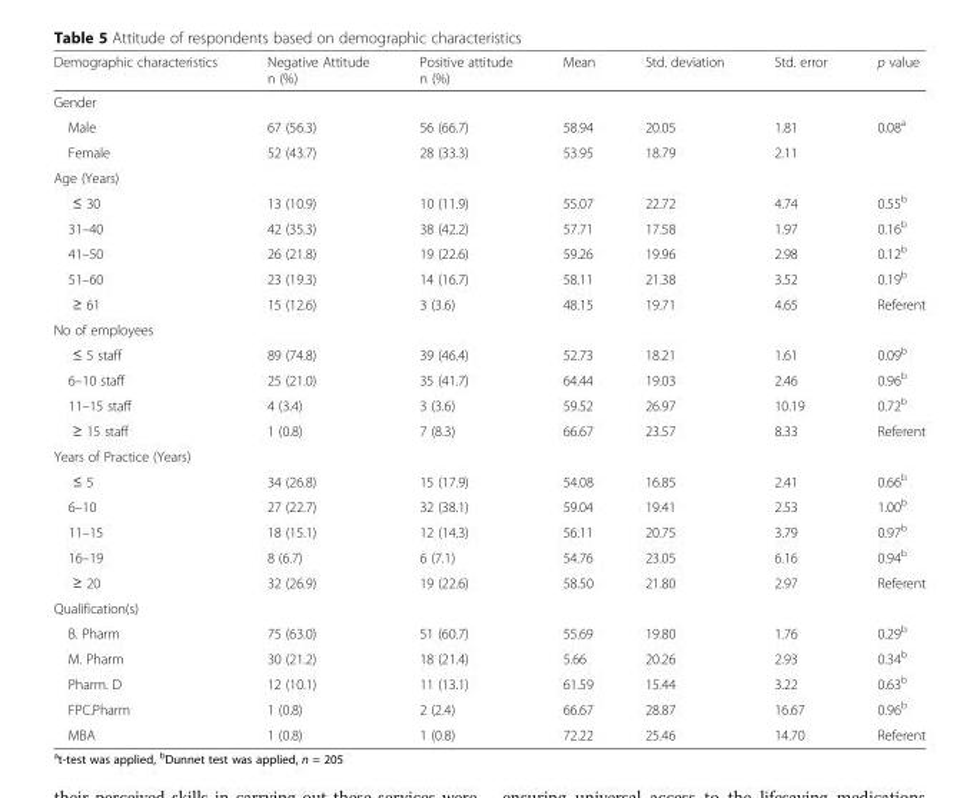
<table><thead><tr><td>Demographic characteristics</td><td>Negative Attitude n (%)</td><td>Positive attitude n (%)</td><td>Mean</td><td>Std. deviation</td><td>Std. error</td><td>p value</td></tr></thead><tbody><tr><td colspan="7">Gender</td></tr><tr><td>Male</td><td>67 (56.3)</td><td>56 (66.7)</td><td>58.94</td><td>20.05</td><td>1.81</td><td>0.08<sup>a</sup></td></tr><tr><td>Female</td><td>52 (43.7)</td><td>28 (33.3)</td><td>53.95</td><td>18.79</td><td>2.11</td><td></td></tr><tr><td colspan="7">Age (Years)</td></tr><tr><td>≤ 30</td><td>13 (10.9)</td><td>10 (11.9)</td><td>55.07</td><td>22.72</td><td>4.74</td><td>0.55<sup>b</sup></td></tr><tr><td>31–40</td><td>42 (35.3)</td><td>38 (42.2)</td><td>57.71</td><td>17.58</td><td>1.97</td><td>0.16<sup>b</sup></td></tr><tr><td>41–50</td><td>26 (21.8)</td><td>19 (22.6)</td><td>59.26</td><td>19.96</td><td>2.98</td><td>0.12<sup>b</sup></td></tr><tr><td>51–60</td><td>23 (19.3)</td><td>14 (16.7)</td><td>58.11</td><td>21.38</td><td>3.52</td><td>0.19<sup>b</sup></td></tr><tr><td>≥ 61</td><td>15 (12.6)</td><td>3 (3.6)</td><td>48.15</td><td>19.71</td><td>4.65</td><td>Referent</td></tr><tr><td colspan="7">No of employees</td></tr><tr><td>≤ 5 staff</td><td>89 (74.8)</td><td>39 (46.4)</td><td>52.73</td><td>18.21</td><td>1.61</td><td>0.09<sup>b</sup></td></tr><tr><td>6–10 staff</td><td>25 (21.0)</td><td>35 (41.7)</td><td>64.44</td><td>19.03</td><td>2.46</td><td>0.96<sup>b</sup></td></tr><tr><td>11–15 staff</td><td>4 (3.4)</td><td>3 (3.6)</td><td>59.52</td><td>26.97</td><td>10.19</td><td>0.72<sup>b</sup></td></tr><tr><td>≥ 15 staff</td><td>1 (0.8)</td><td>7 (8.3)</td><td>66.67</td><td>23.57</td><td>8.33</td><td>Referent</td></tr><tr><td colspan="7">Years of Practice (Years)</td></tr><tr><td>≤ 5</td><td>34 (26.8)</td><td>15 (17.9)</td><td>54.08</td><td>16.85</td><td>2.41</td><td>0.66<sup>b</sup></td></tr><tr><td>6–10</td><td>27 (22.7)</td><td>32 (38.1)</td><td>59.04</td><td>19.41</td><td>2.53</td><td>1.00<sup>b</sup></td></tr><tr><td>11–15</td><td>18 (15.1)</td><td>12 (14.3)</td><td>56.11</td><td>20.75</td><td>3.79</td><td>0.97<sup>b</sup></td></tr><tr><td>16–19</td><td>8 (6.7)</td><td>6 (7.1)</td><td>54.76</td><td>23.05</td><td>6.16</td><td>0.94<sup>b</sup></td></tr><tr><td>≥ 20</td><td>32 (26.9)</td><td>19 (22.6)</td><td>58.50</td><td>21.80</td><td>2.97</td><td>Referent</td></tr><tr><td colspan="7">Qualification(s)</td></tr><tr><td>B. Pharm</td><td>75 (63.0)</td><td>51 (60.7)</td><td>55.69</td><td>19.80</td><td>1.76</td><td>0.29<sup>b</sup></td></tr><tr><td>M. Pharm</td><td>30 (21.2)</td><td>18 (21.4)</td><td>5.66</td><td>20.26</td><td>2.93</td><td>0.34<sup>b</sup></td></tr><tr><td>Pharm. D</td><td>12 (10.1)</td><td>11 (13.1)</td><td>61.59</td><td>15.44</td><td>3.22</td><td>0.63<sup>b</sup></td></tr><tr><td>FPC.Pharm</td><td>1 (0.8)</td><td>2 (2.4)</td><td>66.67</td><td>28.87</td><td>16.67</td><td>0.96<sup>b</sup></td></tr><tr><td>MBA</td><td>1 (0.8)</td><td>1 (0.8)</td><td>72.22</td><td>25.46</td><td>14.70</td><td>Referent</td></tr></tbody></table>